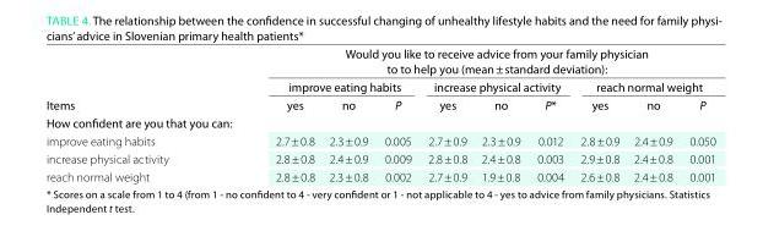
<table><thead><tr><td rowspan="3">Items</td><td colspan="9">Would you like to receive advice from your family physician to to help you (mean ± standard deviation):</td></tr><tr><td colspan="3">improve eating habits</td><td colspan="3">increase physical activity</td><td colspan="3">reach normal weight</td></tr><tr><td>yes</td><td>no</td><td>P</td><td>yes</td><td>no</td><td>P*</td><td>yes</td><td>no</td><td>P</td></tr></thead><tbody><tr><td colspan="10">how confident are you that you can:</td></tr><tr><td>improve eating habits</td><td>2.7 ± 0.8</td><td>2.3 ± 0.9</td><td>0.005</td><td>2.7 ± 0.9</td><td>2.3 ± 0.9</td><td>0.012</td><td>2.8 ± 0.9</td><td>2.4 ± 0.9</td><td>0.050</td></tr><tr><td>increase physical activity</td><td>2.8 ± 0.8</td><td>2.4 ± 0.9</td><td>0.009</td><td>2.8 ± 0.8</td><td>2.4 ± 0.8</td><td>0.003</td><td>2.9 ± 0.8</td><td>2.4 ± 0.8</td><td>0.001</td></tr><tr><td>reach normal weight</td><td>2.8 ± 0.8</td><td>2.3 ± 0.8</td><td>0.002</td><td>2.7 ± 0.9</td><td>1.9 ± 0.8</td><td>0.004</td><td>2.6 ± 0.8</td><td>2.4 ± 0.8</td><td>0.001</td></tr></tbody></table>